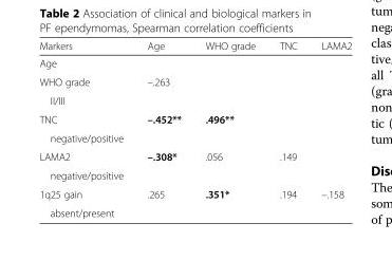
<table><thead><tr><td>Markers</td><td>Age</td><td>WHO grade</td><td>TNC</td><td>LAMA2</td></tr></thead><tbody><tr><td colspan="5">Age</td></tr><tr><td>WHO grade</td><td>–.263</td><td></td><td></td><td></td></tr><tr><td colspan="5">II/III</td></tr><tr><td>TNC</td><td>–.452**</td><td>.496**</td><td></td><td></td></tr><tr><td colspan="5">negative/positive</td></tr><tr><td>LAMA2</td><td>–.308*</td><td>.056</td><td>.149</td><td></td></tr><tr><td colspan="5">negative/positive</td></tr><tr><td>1q25 gain</td><td>.265</td><td>.351*</td><td>.194</td><td>–.158</td></tr><tr><td>absent/present</td><td></td><td></td><td></td><td></td></tr></tbody></table>